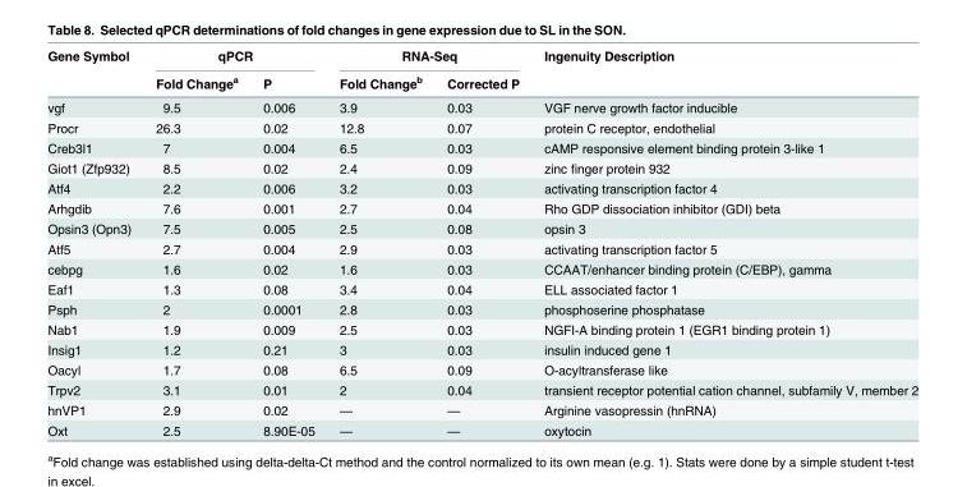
<table><thead><tr><td rowspan="2">Gene Symbol</td><td colspan="2">qPCR</td><td colspan="2">RNA-Seq</td><td rowspan="2">Ingenuity Description</td></tr><tr><td>Fold Change<sup>a</sup></td><td>P</td><td>Fold Change<sup>b</sup></td><td>Corrected P</td></tr></thead><tbody><tr><td>vgf</td><td>9.5</td><td>0.006</td><td>3.9</td><td>0.03</td><td>VGF nerve growth factor inducible</td></tr><tr><td>Procr</td><td>26.3</td><td>0.02</td><td>12.8</td><td>0.07</td><td>protein C receptor, endothelial</td></tr><tr><td>Creb3l1</td><td>7</td><td>0.004</td><td>6.5</td><td>0.03</td><td>cAMP responsive element binding protein 3-like 1</td></tr><tr><td>Giot1 (Zfp932)</td><td>8.5</td><td>0.02</td><td>2.4</td><td>0.09</td><td>zinc finger protein 932</td></tr><tr><td>Atf4</td><td>2.2</td><td>0.006</td><td>3.2</td><td>0.03</td><td>activating transcription factor 4</td></tr><tr><td>Arhgdib</td><td>7.6</td><td>0.001</td><td>2.7</td><td>0.04</td><td>Rho GDP dissociation inhibitor (GDI) beta</td></tr><tr><td>Opsin3 (Opn3)</td><td>7.5</td><td>0.005</td><td>2.5</td><td>0.08</td><td>opsin 3</td></tr><tr><td>Atf5</td><td>2.7</td><td>0.004</td><td>2.9</td><td>0.03</td><td>activating transcription factor 5</td></tr><tr><td>cebpg</td><td>1.6</td><td>0.02</td><td>1.6</td><td>0.03</td><td>CCAAT/enhancer binding protein (C/EBP), gamma</td></tr><tr><td>Eaf1</td><td>1.3</td><td>0.08</td><td>3.4</td><td>0.04</td><td>ELL associated factor 1</td></tr><tr><td>Psph</td><td>2</td><td>0.0001</td><td>2.8</td><td>0.03</td><td>phosphoserine phosphatase</td></tr><tr><td>Nab1</td><td>1.9</td><td>0.009</td><td>2.5</td><td>0.03</td><td>NGFI-A binding protein 1 (EGR1 binding protein 1)</td></tr><tr><td>Insig1</td><td>1.2</td><td>0.21</td><td>3</td><td>0.03</td><td>insulin induced gene 1</td></tr><tr><td>Oacyl</td><td>1.7</td><td>0.08</td><td>6.5</td><td>0.09</td><td>O-acyltransferase like</td></tr><tr><td>Trpv2</td><td>3.1</td><td>0.01</td><td>2</td><td>0.04</td><td>transient receptor potential cation channel, subfamily V, member 2</td></tr><tr><td>hnVP1</td><td>2.9</td><td>0.02</td><td>—</td><td>—</td><td>Arginine vasopressin (hnRNA)</td></tr><tr><td>Oxt</td><td>2.5</td><td>8.90E-05</td><td>—</td><td>—</td><td>oxytocin</td></tr></tbody></table>